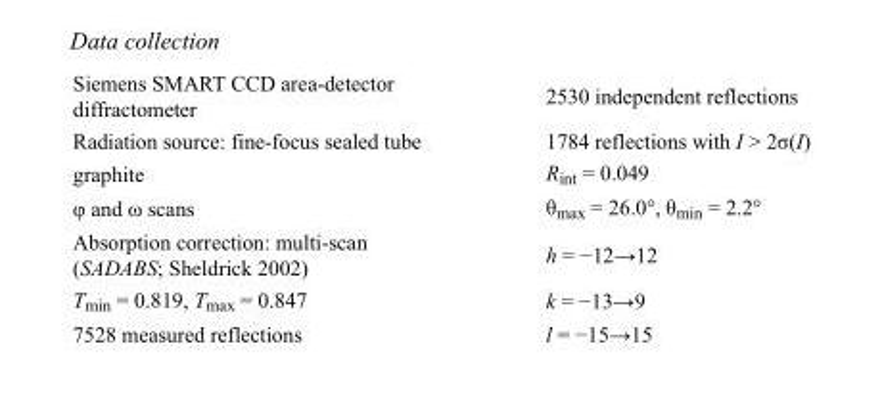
<table><tbody><tr><td>Siemens SMART CCD area-detector diffractometer</td><td>2530 independent reflections</td></tr><tr><td>Radiation source: fine-focus sealed tube</td><td>1784 reflections with I &gt; 2σ(I)</td></tr><tr><td>graphite</td><td>R<sub>int</sub> = 0.049</td></tr><tr><td>φ and ω scans</td><td>θ<sub>max</sub> = 26.0°, θ<sub>min</sub> = 2.2°</td></tr><tr><td>Absorption correction: multi-scan (SADABS; Sheldrick 2002)</td><td>h = −12→12</td></tr><tr><td>T<sub>min</sub> = 0.819, T<sub>max</sub> = 0.847</td><td>k = −13→9</td></tr><tr><td>7528 measured reflections</td><td>l = −15→15</td></tr></tbody></table>